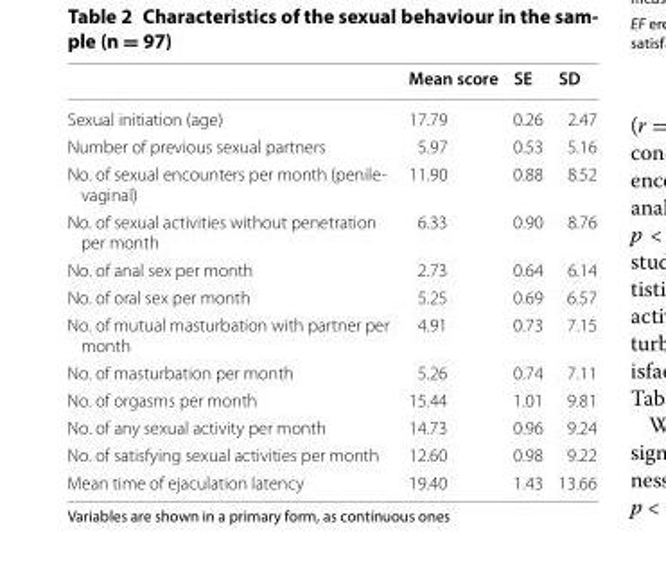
<table><thead><tr><td></td><td>Mean score</td><td>SE</td><td>SD</td></tr></thead><tbody><tr><td>Sexual initiation (age)</td><td>17.79</td><td>0.26</td><td>2.47</td></tr><tr><td>Number of previous sexual partners</td><td>5.97</td><td>0.53</td><td>5.16</td></tr><tr><td>No. of sexual encounters per month (penile‑ vaginal)</td><td>11.90</td><td>0.88</td><td>8.52</td></tr><tr><td>No. of sexual activities without penetration per month</td><td>6.33</td><td>0.90</td><td>8.76</td></tr><tr><td>No. of anal sex per month</td><td>2.73</td><td>0.64</td><td>6.14</td></tr><tr><td>No. of oral sex per month</td><td>5.25</td><td>0.69</td><td>6.57</td></tr><tr><td>No. of mutual masturbation with partner per month</td><td>4.91</td><td>0.73</td><td>7.15</td></tr><tr><td>No. of masturbation per month</td><td>5.26</td><td>0.74</td><td>7.11</td></tr><tr><td>No. of orgasms per month</td><td>15.44</td><td>1.01</td><td>9.81</td></tr><tr><td>No. of any sexual activity per month</td><td>14.73</td><td>0.96</td><td>9.24</td></tr><tr><td>No. of satisfying sexual activities per month</td><td>12.60</td><td>0.98</td><td>9.22</td></tr><tr><td>Mean time of ejaculation latency</td><td>19.40</td><td>1.43</td><td>13.66</td></tr></tbody></table>